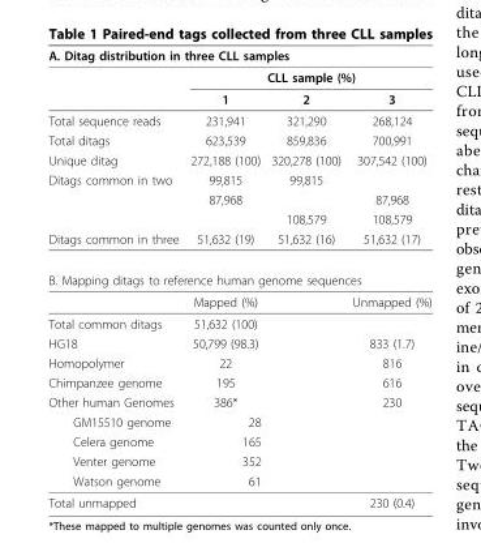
<table><thead><tr><td colspan="4">A. Ditag distribution in three CLL samples</td></tr><tr><td rowspan="2"></td><td colspan="3">CLL sample (%)</td></tr><tr><td>1</td><td>2</td><td>3</td></tr></thead><tbody><tr><td>Total sequence reads</td><td>231,941</td><td>321,290</td><td>268,124</td></tr><tr><td>Total ditags</td><td>623,539</td><td>859,836</td><td>700,991</td></tr><tr><td>Unique ditag</td><td>272,188 (100)</td><td>320,278 (100)</td><td>307,542 (100)</td></tr><tr><td rowspan="3">Ditags common in two</td><td>99,815</td><td>99,815</td><td></td></tr><tr><td>87,968</td><td></td><td>87,968</td></tr><tr><td></td><td>108,579</td><td>108,579</td></tr><tr><td>Ditags common in three</td><td>51,632 (19)</td><td>51,632 (16)</td><td>51,632 (17)</td></tr><tr><td colspan="4">B. Mapping ditags to reference human genome sequences</td></tr><tr><td></td><td>Mapped (%)</td><td></td><td>Unmapped (%)</td></tr><tr><td>Total common ditags</td><td>51,632 (100)</td><td></td><td></td></tr><tr><td>HG18</td><td>50,799 (98.3)</td><td></td><td>833 (1.7)</td></tr><tr><td>Homopolymer</td><td>22</td><td></td><td>816</td></tr><tr><td>Chimpanzee genome</td><td>195</td><td></td><td>616</td></tr><tr><td>Other human Genomes</td><td>386*</td><td></td><td>230</td></tr><tr><td>GM15510 genome</td><td>28</td><td></td><td></td></tr><tr><td>Celera genome</td><td>165</td><td></td><td></td></tr><tr><td>Venter genome</td><td>352</td><td></td><td></td></tr><tr><td>Watson genome</td><td>61</td><td></td><td></td></tr><tr><td>Total unmapped</td><td></td><td></td><td>230 (0.4)</td></tr></tbody></table>